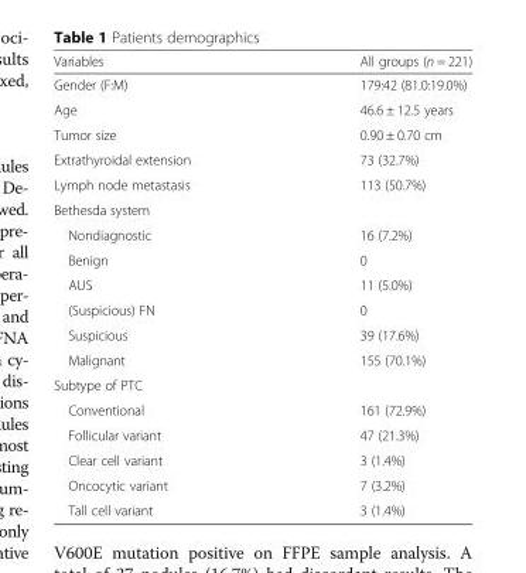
<table><thead><tr><td>Variables</td><td>All groups (n = 221)</td></tr></thead><tbody><tr><td>Gender (F:M)</td><td>179:42 (81.0:19.0%)</td></tr><tr><td>Age</td><td>46.6 ± 12.5 years</td></tr><tr><td>Tumor size</td><td>0.90 ± 0.70 cm</td></tr><tr><td>Extrathyroidal extension</td><td>73 (32.7%)</td></tr><tr><td>Lymph node metastasis</td><td>113 (50.7%)</td></tr><tr><td colspan="2">Bethesda system</td></tr><tr><td>Nondiagnostic</td><td>16 (7.2%)</td></tr><tr><td>Benign</td><td>0</td></tr><tr><td>AUS</td><td>11 (5.0%)</td></tr><tr><td>(Suspicious) FN</td><td>0</td></tr><tr><td>Suspicious</td><td>39 (17.6%)</td></tr><tr><td>Malignant</td><td>155 (70.1%)</td></tr><tr><td colspan="2">Subtype of PTC</td></tr><tr><td>Conventional</td><td>161 (72.9%)</td></tr><tr><td>Follicular variant</td><td>47 (21.3%)</td></tr><tr><td>Clear cell variant</td><td>3 (1.4%)</td></tr><tr><td>Oncocytic variant</td><td>7 (3.2%)</td></tr><tr><td>Tall cell variant</td><td>3 (1.4%)</td></tr></tbody></table>